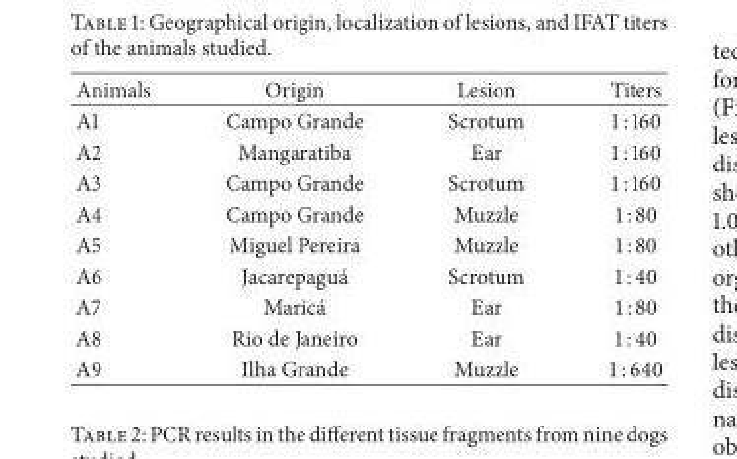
<table><thead><tr><td>Animals</td><td>Origin</td><td>Lesion</td><td>Titers</td></tr></thead><tbody><tr><td>A1</td><td>Campo Grande</td><td>Scrotum</td><td>1 : 160</td></tr><tr><td>A2</td><td>Mangaratiba</td><td>Ear</td><td>1 : 160</td></tr><tr><td>A3</td><td>Campo Grande</td><td>Scrotum</td><td>1 : 160</td></tr><tr><td>A4</td><td>Campo Grande</td><td>Muzzle</td><td>1 : 80</td></tr><tr><td>A5</td><td>Miguel Pereira</td><td>Muzzle</td><td>1 : 80</td></tr><tr><td>A6</td><td>Jacarepagu´a</td><td>Scrotum</td><td>1 : 40</td></tr><tr><td>A7</td><td>Maric´a</td><td>Ear</td><td>1 : 80</td></tr><tr><td>A8</td><td>Rio de Janeiro</td><td>Ear</td><td>1 : 40</td></tr><tr><td>A9</td><td>Ilha Grande</td><td>Muzzle</td><td>1 : 640</td></tr></tbody></table>